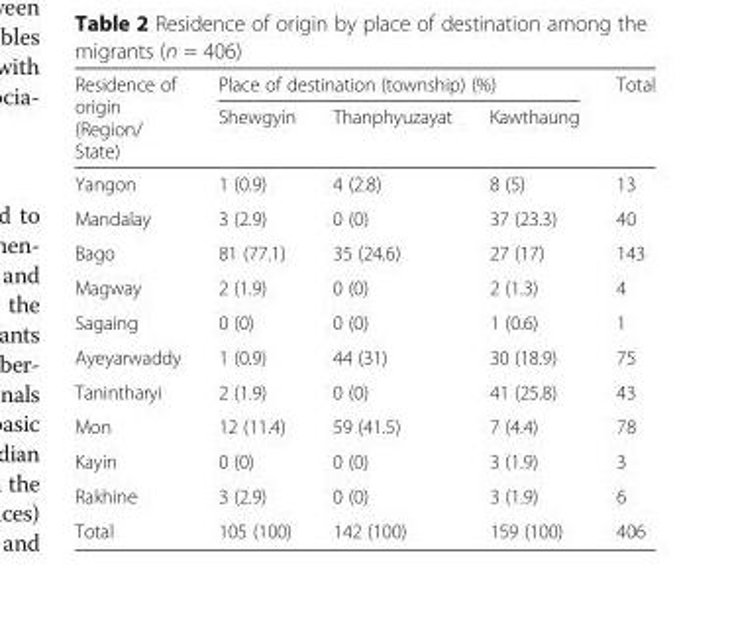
<table><thead><tr><td rowspan="2">Residence of origin (Region/ State)</td><td colspan="3">Place of destination (township) (%)</td><td rowspan="2">Total</td></tr><tr><td>Shewgyin</td><td>Thanphyuzayat</td><td>Kawthaung</td></tr></thead><tbody><tr><td>Yangon</td><td>1 (0.9)</td><td>4 (2.8)</td><td>8 (5)</td><td>13</td></tr><tr><td>Mandalay</td><td>3 (2.9)</td><td>0 (0)</td><td>37 (23.3)</td><td>40</td></tr><tr><td>Bago</td><td>81 (77.1)</td><td>35 (24.6)</td><td>27 (17)</td><td>143</td></tr><tr><td>Magway</td><td>2 (1.9)</td><td>0 (0)</td><td>2 (1.3)</td><td>4</td></tr><tr><td>Sagaing</td><td>0 (0)</td><td>0 (0)</td><td>1 (0.6)</td><td>1</td></tr><tr><td>Ayeyarwaddy</td><td>1 (0.9)</td><td>44 (31)</td><td>30 (18.9)</td><td>75</td></tr><tr><td>Tanintharyi</td><td>2 (1.9)</td><td>0 (0)</td><td>41 (25.8)</td><td>43</td></tr><tr><td>Mon</td><td>12 (11.4)</td><td>59 (41.5)</td><td>7 (4.4)</td><td>78</td></tr><tr><td>Kayin</td><td>0 (0)</td><td>0 (0)</td><td>3 (1.9)</td><td>3</td></tr><tr><td>Rakhine</td><td>3 (2.9)</td><td>0 (0)</td><td>3 (1.9)</td><td>6</td></tr><tr><td>Total</td><td>105 (100)</td><td>142 (100)</td><td>159 (100)</td><td>406</td></tr></tbody></table>